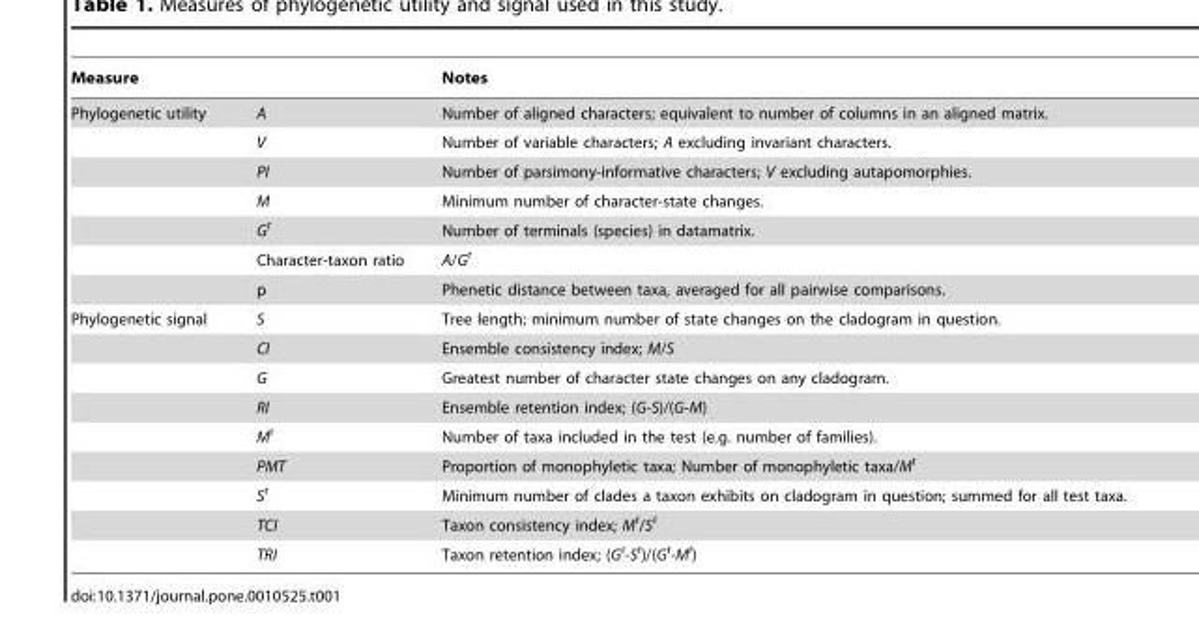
<table><thead><tr><td>Measure</td><td></td><td>Notes</td></tr></thead><tbody><tr><td rowspan="7">Phylogenetic utility</td><td>A</td><td>Number of aligned characters; equivalent to number of columns in an aligned matrix.</td></tr><tr><td>V</td><td>Number of variable characters; A excluding invariant characters.</td></tr><tr><td>PI</td><td>Number of parsimony-informative characters; V excluding autapomorphies.</td></tr><tr><td>M</td><td>Minimum number of character-state changes.</td></tr><tr><td>G<sup>t</sup></td><td>Number of terminals (species) in datamatrix.</td></tr><tr><td>Character-taxon ratio</td><td>A/G<sup>t</sup></td></tr><tr><td>p</td><td>Phenetic distance between taxa, averaged for all pairwise comparisons.</td></tr><tr><td rowspan="9">Phylogenetic signal</td><td>S</td><td>Tree length; minimum number of state changes on the cladogram in question.</td></tr><tr><td>CI</td><td>Ensemble consistency index; M/S</td></tr><tr><td>G</td><td>Greatest number of character state changes on any cladogram.</td></tr><tr><td>RI</td><td>Ensemble retention index; (G-S)/(G-M)</td></tr><tr><td>M<sup>t</sup></td><td>Number of taxa included in the test (e.g. number of families).</td></tr><tr><td>PMT</td><td>Proportion of monophyletic taxa; Number of monophyletic taxa/M<sup>t</sup></td></tr><tr><td>S<sup>t</sup></td><td>Minimum number of clades a taxon exhibits on cladogram in question; summed for all test taxa.</td></tr><tr><td>TCI</td><td>Taxon consistency index; M<sup>t</sup>/S<sup>t</sup></td></tr><tr><td>TRI</td><td>Taxon retention index; (G<sup>t</sup>-S<sup>t</sup>)/(G<sup>t</sup>-M<sup>t</sup>)</td></tr></tbody></table>